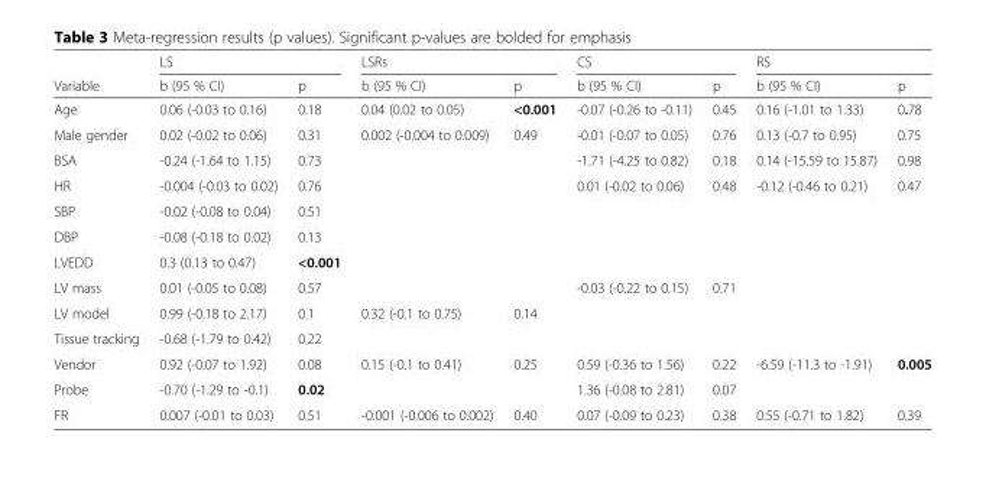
<table><thead><tr><td rowspan="2">Variable</td><td colspan="2">LS</td><td colspan="2">LSRs</td><td colspan="2">CS</td><td colspan="2">RS</td></tr><tr><td>b (95 % CI)</td><td>p</td><td>b (95 % CI)</td><td>p</td><td>b (95 % CI)</td><td>p</td><td>b (95 % CI)</td><td>p</td></tr></thead><tbody><tr><td>Age</td><td>0.06 (-0.03 to 0.16)</td><td>0.18</td><td>0.04 (0.02 to 0.05)</td><td>&lt;0.001</td><td>-0.07 (-0.26 to -0.11)</td><td>0.45</td><td>0.16 (-1.01 to 1.33)</td><td>0.78</td></tr><tr><td>Male gender</td><td>0.02 (-0.02 to 0.06)</td><td>0.31</td><td>0.002 (-0.004 to 0.009)</td><td>0.49</td><td>-0.01 (-0.07 to 0.05)</td><td>0.76</td><td>0.13 (-0.7 to 0.95)</td><td>0.75</td></tr><tr><td>BSA</td><td>-0.24 (-1.64 to 1.15)</td><td>0.73</td><td></td><td></td><td>-1.71 (-4.25 to 0.82)</td><td>0.18</td><td>0.14 (-15.59 to 15.87)</td><td>0.98</td></tr><tr><td>HR</td><td>-0.004 (-0.03 to 0.02)</td><td>0.76</td><td></td><td></td><td>0.01 (-0.02 to 0.06)</td><td>0.48</td><td>-0.12 (-0.46 to 0.21)</td><td>0.47</td></tr><tr><td>SBP</td><td>-0.02 (-0.08 to 0.04)</td><td>0.51</td><td></td><td></td><td></td><td></td><td></td><td></td></tr><tr><td>DBP</td><td>-0.08 (-0.18 to 0.02)</td><td>0.13</td><td></td><td></td><td></td><td></td><td></td><td></td></tr><tr><td>LVEDD</td><td>0.3 (0.13 to 0.47)</td><td>&lt;0.001</td><td></td><td></td><td></td><td></td><td></td><td></td></tr><tr><td>LV mass</td><td>0.01 (-0.05 to 0.08)</td><td>0.57</td><td></td><td></td><td>-0.03 (-0.22 to 0.15)</td><td>0.71</td><td></td><td></td></tr><tr><td>LV model</td><td>0.99 (-0.18 to 2.17)</td><td>0.1</td><td>0.32 (-0.1 to 0.75)</td><td>0.14</td><td></td><td></td><td></td><td></td></tr><tr><td>Tissue tracking</td><td>-0.68 (-1.79 to 0.42)</td><td>0.22</td><td></td><td></td><td></td><td></td><td></td><td></td></tr><tr><td>Vendor</td><td>0.92 (-0.07 to 1.92)</td><td>0.08</td><td>0.15 (-0.1 to 0.41)</td><td>0.25</td><td>0.59 (-0.36 to 1.56)</td><td>0.22</td><td>-6.59 (-11.3 to -1.91)</td><td>0.005</td></tr><tr><td>Probe</td><td>-0.70 (-1.29 to -0.1)</td><td>0.02</td><td></td><td></td><td>1.36 (-0.08 to 2.81)</td><td>0.07</td><td></td><td></td></tr><tr><td>FR</td><td>0.007 (-0.01 to 0.03)</td><td>0.51</td><td>-0.001 (-0.006 to 0.002)</td><td>0.40</td><td>0.07 (-0.09 to 0.23)</td><td>0.38</td><td>0.55 (-0.71 to 1.82)</td><td>0.39</td></tr></tbody></table>